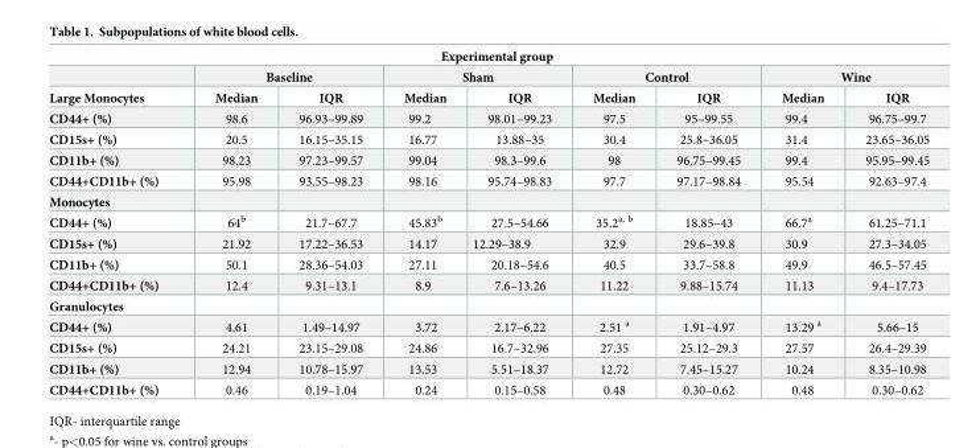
<table><thead><tr><td colspan="9">Experimental group</td></tr><tr><td rowspan="2">Large Monocytes</td><td colspan="2">Baseline</td><td colspan="2">Sham</td><td colspan="2">Control</td><td colspan="2">Wine</td></tr><tr><td>Median</td><td>IQR</td><td>Median</td><td>IQR</td><td>Median</td><td>IQR</td><td>Median</td><td>IQR</td></tr></thead><tbody><tr><td>CD44+ (%)</td><td>98.6</td><td>96.93–99.89</td><td>99.2</td><td>98.01–99.23</td><td>97.5</td><td>95–99.55</td><td>99.4</td><td>96.75–99.7</td></tr><tr><td>CD15s+ (%)</td><td>20.5</td><td>16.15–35.15</td><td>16.77</td><td>13.88–35</td><td>30.4</td><td>25.8–36.05</td><td>31.4</td><td>23.65–36.05</td></tr><tr><td>CD11b+ (%)</td><td>98.23</td><td>97.23–99.57</td><td>99.04</td><td>98.3–99.6</td><td>98</td><td>96.75–99.45</td><td>99.4</td><td>95.95–99.45</td></tr><tr><td>CD44+CD11b+ (%)</td><td>95.98</td><td>93.55–98.23</td><td>98.16</td><td>95.74–98.83</td><td>97.7</td><td>97.17–98.84</td><td>95.54</td><td>92.63–97.4</td></tr><tr><td colspan="9">Monocytes</td></tr><tr><td>CD44+ (%)</td><td>64<sup>b</sup></td><td>21.7–67.7</td><td>45.83<sup>b</sup></td><td>27.5–54.66</td><td>35.2<sup>a, b</sup></td><td>18.85–43</td><td>66.7<sup>a</sup></td><td>61.25–71.1</td></tr><tr><td>CD15s+ (%)</td><td>21.92</td><td>17.22–36.53</td><td>14.17</td><td>12.29–38.9</td><td>32.9</td><td>29.6–39.8</td><td>30.9</td><td>27.3–34.05</td></tr><tr><td>CD11b+ (%)</td><td>50.1</td><td>28.36–54.03</td><td>27.11</td><td>20.18–54.6</td><td>40.5</td><td>33.7–58.8</td><td>49.9</td><td>46.5–57.45</td></tr><tr><td>CD44+CD11b+ (%)</td><td>12.4</td><td>9.31–13.1</td><td>8.9</td><td>7.6–13.26</td><td>11.22</td><td>9.88–15.74</td><td>11.13</td><td>9.4–17.73</td></tr><tr><td colspan="9">Granulocytes</td></tr><tr><td>CD44+ (%)</td><td>4.61</td><td>1.49–14.97</td><td>3.72</td><td>2.17–6.22</td><td>2.51 <sup>a</sup></td><td>1.91–4.97</td><td>13.29 <sup>a</sup></td><td>5.66–15</td></tr><tr><td>CD15s+ (%)</td><td>24.21</td><td>23.15–29.08</td><td>24.86</td><td>16.7–32.96</td><td>27.35</td><td>25.12–29.3</td><td>27.57</td><td>26.4–29.39</td></tr><tr><td>CD11b+ (%)</td><td>12.94</td><td>10.78–15.97</td><td>13.53</td><td>5.51–18.37</td><td>12.72</td><td>7.45–15.27</td><td>10.24</td><td>8.35–10.98</td></tr><tr><td>CD44+CD11b+ (%)</td><td>0.46</td><td>0.19–1.04</td><td>0.24</td><td>0.15–0.58</td><td>0.48</td><td>0.30–0.62</td><td>0.48</td><td>0.30–0.62</td></tr></tbody></table>